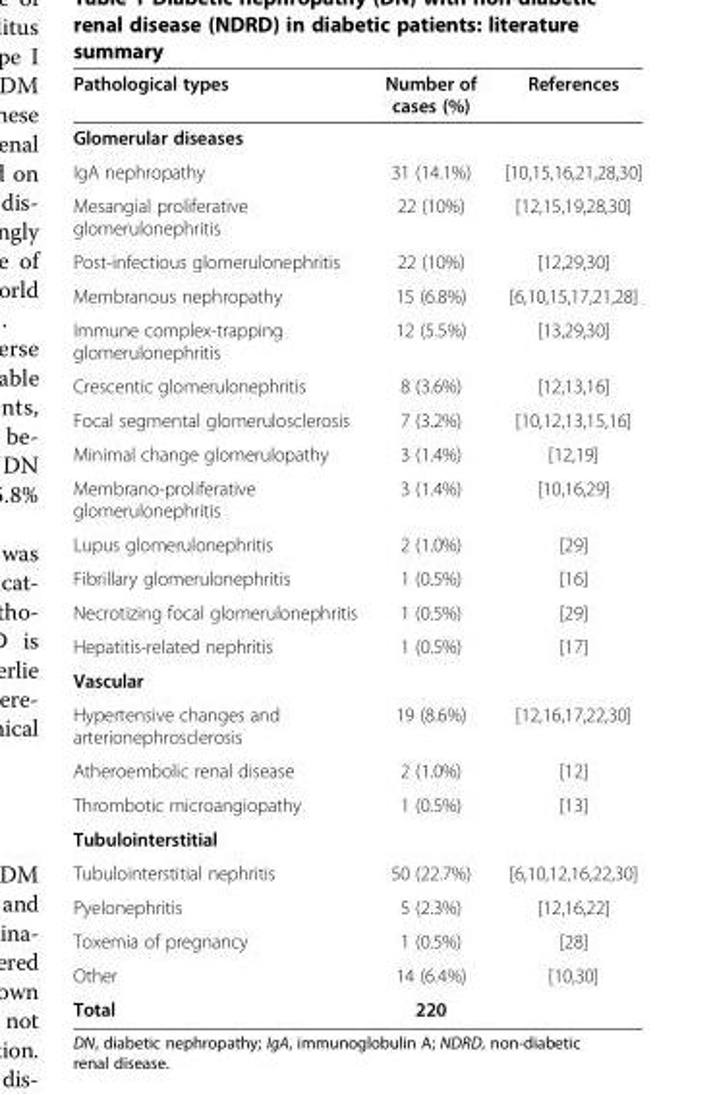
<table><thead><tr><td>Pathological types</td><td>Number of cases (%)</td><td>References</td></tr></thead><tbody><tr><td colspan="3">Glomerular diseases</td></tr><tr><td>IgA nephropathy</td><td>31 (14.1%)</td><td>[10,15,16,21,28,30]</td></tr><tr><td>Mesangial proliferative glomerulonephritis</td><td>22 (10%)</td><td>[12,15,19,28,30]</td></tr><tr><td>Post-infectious glomerulonephritis</td><td>22 (10%)</td><td>[12,29,30]</td></tr><tr><td>Membranous nephropathy</td><td>15 (6.8%)</td><td>[6,10,15,17,21,28]</td></tr><tr><td>Immune complex-trapping glomerulonephritis</td><td>12 (5.5%)</td><td>[13,29,30]</td></tr><tr><td>Crescentic glomerulonephritis</td><td>8 (3.6%)</td><td>[12,13,16]</td></tr><tr><td>Focal segmental glomerulosclerosis</td><td>7 (3.2%)</td><td>[10,12,13,15,16]</td></tr><tr><td>Minimal change glomerulopathy</td><td>3 (1.4%)</td><td>[12,19]</td></tr><tr><td>Membrano-proliferative glomerulonephritis</td><td>3 (1.4%)</td><td>[10,16,29]</td></tr><tr><td>Lupus glomerulonephritis</td><td>2 (1.0%)</td><td>[29]</td></tr><tr><td>Fibrillary glomerulonephritis</td><td>1 (0.5%)</td><td>[16]</td></tr><tr><td>Necrotizing focal glomerulonephritis</td><td>1 (0.5%)</td><td>[29]</td></tr><tr><td>Hepatitis-related nephritis</td><td>1 (0.5%)</td><td>[17]</td></tr><tr><td colspan="3">Vascular</td></tr><tr><td>Hypertensive changes and arterionephrosclerosis</td><td>19 (8.6%)</td><td>[12,16,17,22,30]</td></tr><tr><td>Atheroembolic renal disease</td><td>2 (1.0%)</td><td>[12]</td></tr><tr><td>Thrombotic microangiopathy</td><td>1 (0.5%)</td><td>[13]</td></tr><tr><td colspan="3">Tubulointerstitial</td></tr><tr><td>Tubulointerstitial nephritis</td><td>50 (22.7%)</td><td>[6,10,12,16,22,30]</td></tr><tr><td>Pyelonephritis</td><td>5 (2.3%)</td><td>[12,16,22]</td></tr><tr><td>Toxemia of pregnancy</td><td>1 (0.5%)</td><td>[28]</td></tr><tr><td>Other</td><td>14 (6.4%)</td><td>[10,30]</td></tr><tr><td>Total</td><td>220</td><td></td></tr></tbody></table>